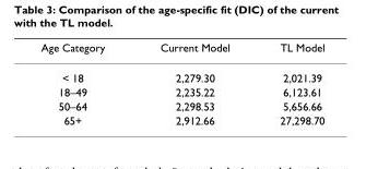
<table><thead><tr><td>Age Category</td><td>Current Model</td><td>TL Model</td></tr></thead><tbody><tr><td>&lt; 18</td><td>2,279.30</td><td>2,021.39</td></tr><tr><td>18–49</td><td>2,235.22</td><td>6,123.61</td></tr><tr><td>50–64</td><td>2,298.53</td><td>5,656.66</td></tr><tr><td>65+</td><td>2,912.66</td><td>27,298.70</td></tr></tbody></table>